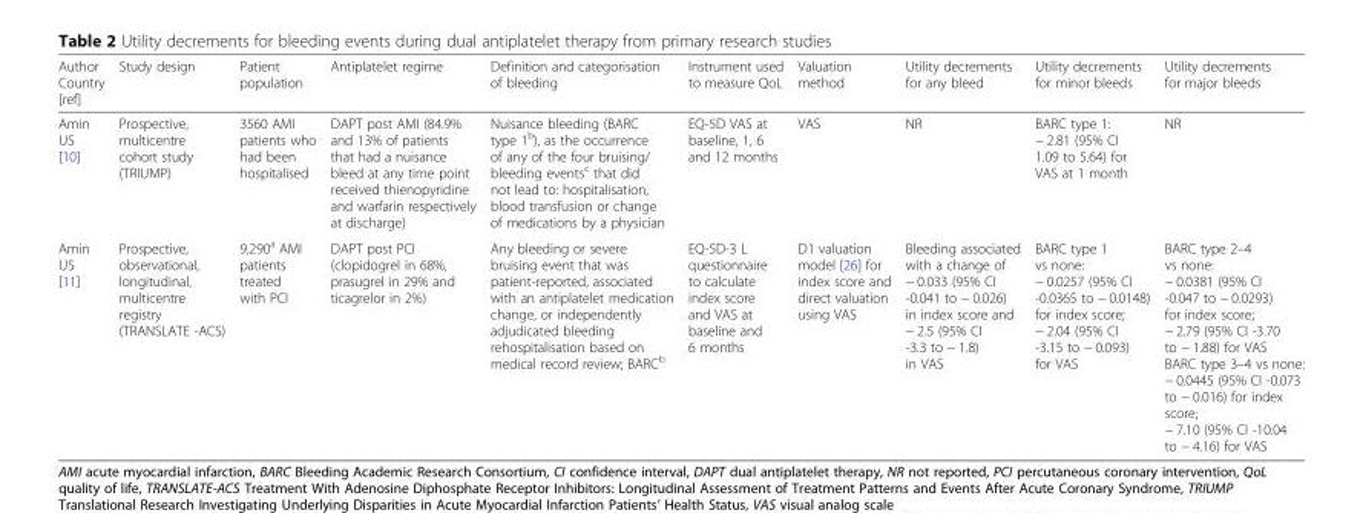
<table><thead><tr><td>Author Country [ref]</td><td>Study design</td><td>Patient population</td><td>Antiplatelet regime</td><td>Definition and categorisation of bleeding</td><td>Instrument used to measure QoL</td><td>Valuation method</td><td>Utility decrements for any bleed</td><td>Utility decrements for minor bleeds</td><td>Utility decrements for major bleeds</td></tr></thead><tbody><tr><td>Amin US [10]</td><td>Prospective, multicentre cohort study (TRIUMP)</td><td>3560 AMI patients who had been hospitalised</td><td>DAPT post AMI (84.9% and 13% of patients that had a nuisance bleed at any time point received thienopyridine and warfarin respectively at discharge)</td><td>Nuisance bleeding (BARC type 1<sup>b</sup>), as the occurrence of any of the four bruising/ bleeding events<sup>c</sup> that did not lead to: hospitalisation, blood transfusion or change of medications by a physician</td><td>EQ-5D VAS at baseline, 1, 6 and 12 months</td><td>VAS</td><td>NR</td><td>BARC type 1: − 2.81 (95% CI 1.09 to 5.64) for VAS at 1 month</td><td>NR</td></tr><tr><td>Amin US [11]</td><td>Prospective, observational, longitudinal, multicentre registry (TRANSLATE -ACS)</td><td>9,290<sup>a</sup> AMI patients treated with PCI</td><td>DAPT post PCI (clopidogrel in 68%, prasugrel in 29% and ticagrelor in 2%)</td><td>Any bleeding or severe bruising event that was patient-reported, associated with an antiplatelet medication change, or independently adjudicated bleeding rehospitalisation based on medical record review; BARC<sup>b</sup></td><td>EQ-5D-3 L questionnaire to calculate index score and VAS at baseline and 6 months</td><td>D1 valuation model [26] for index score and direct valuation using VAS</td><td>Bleeding associated with a change of − 0.033 (95% CI -0.041 to − 0.026) in index score and − 2.5 (95% CI -3.3 to − 1.8) in VAS</td><td>BARC type 1 vs none: − 0.0257 (95% CI -0.0365 to − 0.0148) for index score; − 2.04 (95% CI -3.15 to − 0.093) for VAS</td><td>BARC type 2–4 vs none: − 0.0381 (95% CI -0.047 to − 0.0293) for index score; − 2.79 (95% CI -3.70 to − 1.88) for VAS BARC type 3–4 vs none: − 0.0445 (95% CI -0.073 to − 0.016) for index score; − 7.10 (95% CI -10.04 to − 4.16) for VAS</td></tr></tbody></table>